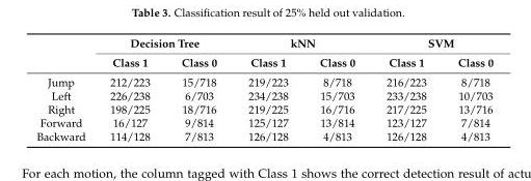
<table><thead><tr><td rowspan="2"></td><td colspan="2">Decision Tree</td><td colspan="2">kNN</td><td colspan="2">SVM</td></tr><tr><td>Class 1</td><td>Class 0</td><td>Class 1</td><td>Class 0</td><td>Class 1</td><td>Class 0</td></tr></thead><tbody><tr><td>Jump</td><td>212/223</td><td>15/718</td><td>219/223</td><td>8/718</td><td>216/223</td><td>8/718</td></tr><tr><td>Left</td><td>226/238</td><td>6/703</td><td>234/238</td><td>15/703</td><td>233/238</td><td>10/703</td></tr><tr><td>Right</td><td>198/225</td><td>18/716</td><td>219/225</td><td>16/716</td><td>217/225</td><td>13/716</td></tr><tr><td>Forward</td><td>16/127</td><td>9/814</td><td>125/127</td><td>13/814</td><td>123/127</td><td>7/814</td></tr><tr><td>Backward</td><td>114/128</td><td>7/813</td><td>126/128</td><td>4/813</td><td>126/128</td><td>4/813</td></tr></tbody></table>